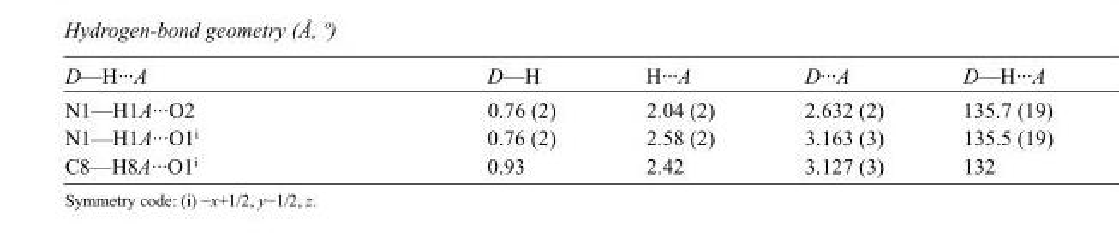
<table><tbody><tr><td>D—H···A</td><td>D—H</td><td>H···A</td><td>D···A</td><td>D—H···A</td></tr><tr><td>N1—H1A···O2</td><td>0.76 (2)</td><td>2.04 (2)</td><td>2.632 (2)</td><td>135.7 (19)</td></tr><tr><td>N1—H1A···O1<sup>i</sup></td><td>0.76 (2)</td><td>2.58 (2)</td><td>3.163 (3)</td><td>135.5 (19)</td></tr><tr><td>C8—H8A···O1<sup>i</sup></td><td>0.93</td><td>2.42</td><td>3.127 (3)</td><td>132</td></tr></tbody></table>